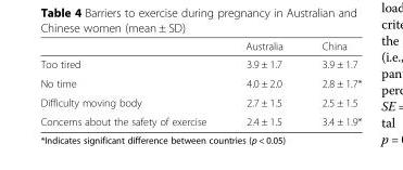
<table><thead><tr><td></td><td>Australia</td><td>China</td></tr></thead><tbody><tr><td>Too tired</td><td>3.9 ± 1.7</td><td>3.9 ± 1.7</td></tr><tr><td>No time</td><td>4.0 ± 2.0</td><td>2.8 ± 1.7*</td></tr><tr><td>Difficulty moving body</td><td>2.7 ± 1.5</td><td>2.5 ± 1.5</td></tr><tr><td>Concerns about the safety of exercise</td><td>2.4 ± 1.5</td><td>3.4 ± 1.9*</td></tr></tbody></table>